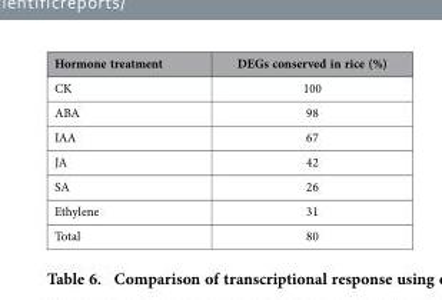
<table><thead><tr><td>Hormone treatment</td><td>DEGs conserved in rice (%)</td></tr></thead><tbody><tr><td>CK</td><td>100</td></tr><tr><td>ABA</td><td>98</td></tr><tr><td>IAA</td><td>67</td></tr><tr><td>JA</td><td>42</td></tr><tr><td>SA</td><td>26</td></tr><tr><td>Ethylene</td><td>31</td></tr><tr><td>Total</td><td>80</td></tr></tbody></table>